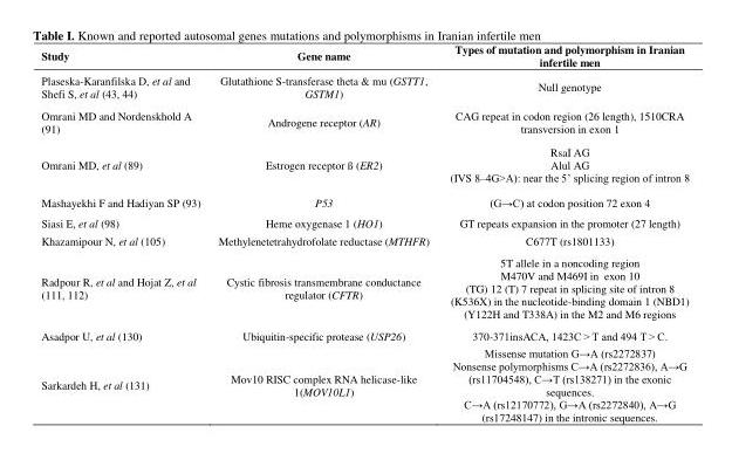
<table><thead><tr><td>Study</td><td>Gene name</td><td>Types of mutation and polymorphism in Iranian infertile men</td></tr></thead><tbody><tr><td>Plaseska-Karanfilska D, et al and Shefi S, et al (43, 44)</td><td>Glutathione S-transferase theta &amp; mu (GSTT1, GSTM1)</td><td>Null genotype</td></tr><tr><td>Omrani MD and Nordenskhold A (91)</td><td>Androgene receptor (AR)</td><td>CAG repeat in codon region (26 length), 1510CRA transversion in exon 1</td></tr><tr><td>Omrani MD, et al (89)</td><td>Estrogen receptor ß (ER2)</td><td>RsaI AG Alul AG (IVS 8–4G&gt;A): near the 5‟ splicing region of intron 8</td></tr><tr><td>Mashayekhi F and Hadiyan SP (93)</td><td>P53</td><td>(G→C) at codon position 72 exon 4</td></tr><tr><td>Siasi E, et al (98)</td><td>Heme oxygenase 1 (HO1)</td><td>GT repeats expansion in the promoter (27 length)</td></tr><tr><td>Khazamipour N, et al (105)</td><td>Methylenetetrahydrofolate reductase (MTHFR)</td><td>C677T (rs1801133)</td></tr><tr><td>Radpour R, et al and Hojat Z, et al (111, 112)</td><td>Cystic fibrosis transmembrane conductance regulator (CFTR)</td><td>5T allele in a noncoding region M470V and M469I in exon 10 (TG) 12 (T) 7 repeat in splicing site of intron 8 (K536X) in the nucleotide-binding domain 1 (NBD1) (Y122H and T338A) in the M2 and M6 regions</td></tr><tr><td>Asadpor U, et al (130)</td><td>Ubiquitin-specific protease (USP26)</td><td>370-371insACA, 1423C &gt; T and 494 T &gt; C.</td></tr><tr><td>Sarkardeh H, et al (131)</td><td>Mov10 RISC complex RNA helicase-like 1(MOV10L1)</td><td>Missense mutation G→A (rs2272837) Nonsense polymorphisms C→A (rs2272836), A→G (rs11704548), C→T (rs138271) in the exonic sequences. C→A (rs12170772), G→A (rs2272840), A→G (rs17248147) in the intronic sequences.</td></tr></tbody></table>